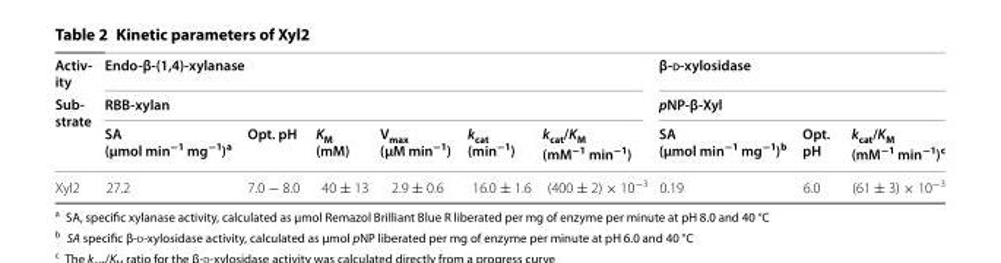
<table><thead><tr><td rowspan="3">Activ- ity Sub- strate</td><td rowspan="2" colspan="6">Endo-β-(1,4)-xylanase RBB-xylan</td><td rowspan="2" colspan="3">β-d-xylosidase pNP-β-Xyl</td></tr><tr></tr><tr><td>SA (µmol min<sup>−1</sup> mg<sup>−1</sup>)<sup>a</sup></td><td>Opt. pH</td><td>K<sub>M</sub> (mM)</td><td>V<sub>max</sub> (µM min<sup>−1</sup>)</td><td>k<sub>cat</sub> (min<sup>−1</sup>)</td><td>k<sub>cat</sub>/K<sub>M</sub> (mM<sup>−1</sup> min<sup>−1</sup>)</td><td>SA (µmol min<sup>−1</sup> mg<sup>−1</sup>)<sup>b</sup></td><td>Opt. pH</td><td>k<sub>cat</sub>/K<sub>M</sub> (mM<sup>−1</sup> min<sup>−1</sup>)<sup>c</sup></td></tr></thead><tbody><tr><td>Xyl2</td><td>27.2</td><td>7.0 − 8.0</td><td>40 ± 13</td><td>2.9 ± 0.6</td><td>16.0 ± 1.6</td><td>(400 ± 2) × 10<sup>−3</sup></td><td>0.19</td><td>6.0</td><td>(61 ± 3) × 10<sup>−3</sup></td></tr></tbody></table>